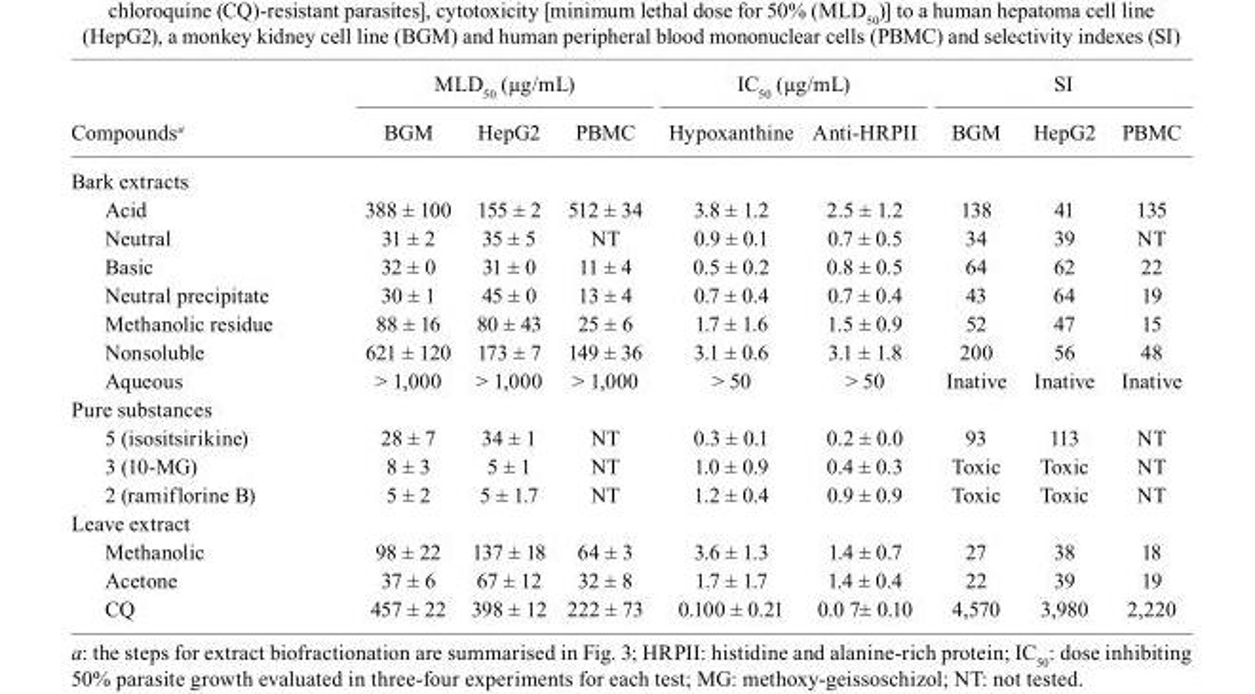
<table><thead><tr><td rowspan="2">Compounds<sup>a</sup></td><td colspan="3">MLD<sub>50</sub> (µg/mL)</td><td colspan="2">IC<sub>50</sub> (µg/mL)</td><td colspan="3">SI</td></tr><tr><td>BGM</td><td>HepG2</td><td>PBMC</td><td>Hypoxanthine</td><td>Anti-HRPII</td><td>BGM</td><td>HepG2</td><td>PBMC</td></tr></thead><tbody><tr><td colspan="9">Bark extracts</td></tr><tr><td>Acid</td><td>388 ± 100</td><td>155 ± 2</td><td>512 ± 34</td><td>3.8 ± 1.2</td><td>2.5 ± 1.2</td><td>138</td><td>41</td><td>135</td></tr><tr><td>Neutral</td><td>31 ± 2</td><td>35 ± 5</td><td>NT</td><td>0.9 ± 0.1</td><td>0.7 ± 0.5</td><td>34</td><td>39</td><td>NT</td></tr><tr><td>Basic</td><td>32 ± 0</td><td>31 ± 0</td><td>11 ± 4</td><td>0.5 ± 0.2</td><td>0.8 ± 0.5</td><td>64</td><td>62</td><td>22</td></tr><tr><td>Neutral precipitate</td><td>30 ± 1</td><td>45 ± 0</td><td>13 ± 4</td><td>0.7 ± 0.4</td><td>0.7 ± 0.4</td><td>43</td><td>64</td><td>19</td></tr><tr><td>Methanolic residue</td><td>88 ± 16</td><td>80 ± 43</td><td>25 ± 6</td><td>1.7 ± 1.6</td><td>1.5 ± 0.9</td><td>52</td><td>47</td><td>15</td></tr><tr><td>Nonsoluble</td><td>621 ± 120</td><td>173 ± 7</td><td>149 ± 36</td><td>3.1 ± 0.6</td><td>3.1 ± 1.8</td><td>200</td><td>56</td><td>48</td></tr><tr><td>Aqueous</td><td>&gt; 1,000</td><td>&gt; 1,000</td><td>&gt; 1,000</td><td>&gt; 50</td><td>&gt; 50</td><td>Inative</td><td>Inative</td><td>Inative</td></tr><tr><td colspan="9">Pure substances</td></tr><tr><td>5 (isositsirikine)</td><td>28 ± 7</td><td>34 ± 1</td><td>NT</td><td>0.3 ± 0.1</td><td>0.2 ± 0.0</td><td>93</td><td>113</td><td>NT</td></tr><tr><td>3 (10-MG)</td><td>8 ± 3</td><td>5 ± 1</td><td>NT</td><td>1.0 ± 0.9</td><td>0.4 ± 0.3</td><td>Toxic</td><td>Toxic</td><td>NT</td></tr><tr><td>2 (ramiflorine B)</td><td>5 ± 2</td><td>5 ± 1.7</td><td>NT</td><td>1.2 ± 0.4</td><td>0.9 ± 0.9</td><td>Toxic</td><td>Toxic</td><td>NT</td></tr><tr><td colspan="9">Leave extract</td></tr><tr><td>Methanolic</td><td>98 ± 22</td><td>137 ± 18</td><td>64 ± 3</td><td>3.6 ± 1.3</td><td>1.4 ± 0.7</td><td>27</td><td>38</td><td>18</td></tr><tr><td>Acetone</td><td>37 ± 6</td><td>67 ± 12</td><td>32 ± 8</td><td>1.7 ± 1.7</td><td>1.4 ± 0.4</td><td>22</td><td>39</td><td>19</td></tr><tr><td>CQ</td><td>457 ± 22</td><td>398 ± 12</td><td>222 ± 73</td><td>0.100 ± 0.21</td><td>0.0 7± 0.10</td><td>4,570</td><td>3,980</td><td>2,220</td></tr></tbody></table>